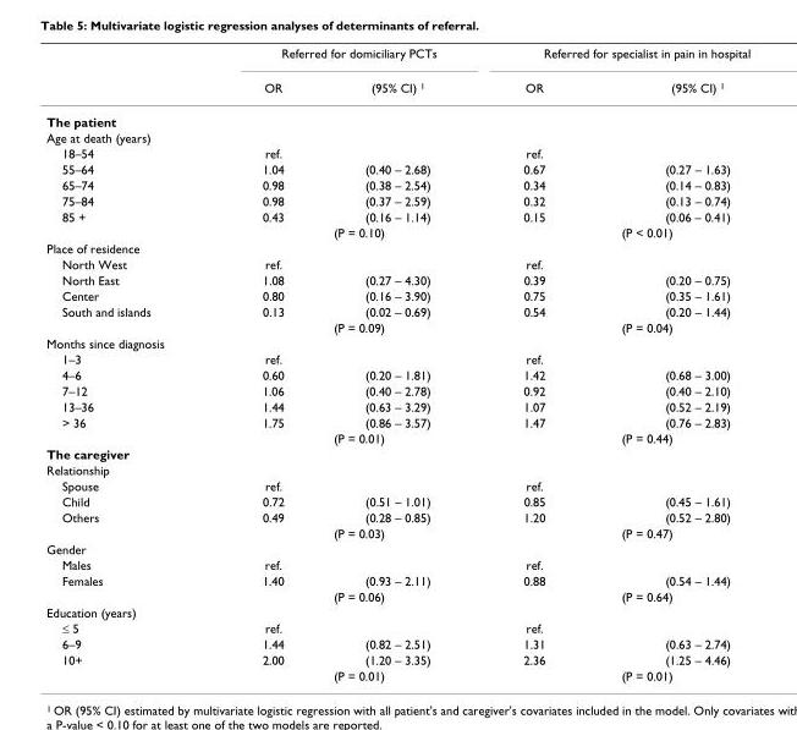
<table><thead><tr><td rowspan="2"></td><td colspan="2">Referred for domiciliary PCTs</td><td colspan="2">Referred for specialist in pain in hospital</td></tr><tr><td>OR</td><td>(95% CI) <sup>1</sup></td><td>OR</td><td>(95% CI) <sup>1</sup></td></tr></thead><tbody><tr><td colspan="5">The patient</td></tr><tr><td colspan="5">Age at death (years)</td></tr><tr><td>18–54</td><td>ref.</td><td></td><td>ref.</td><td></td></tr><tr><td>55–64</td><td>1.04</td><td>(0.40 – 2.68)</td><td>0.67</td><td>(0.27 – 1.63)</td></tr><tr><td>65–74</td><td>0.98</td><td>(0.38 – 2.54)</td><td>0.34</td><td>(0.14 – 0.83)</td></tr><tr><td>75–84</td><td>0.98</td><td>(0.37 – 2.59)</td><td>0.32</td><td>(0.13 – 0.74)</td></tr><tr><td rowspan="2">85 +</td><td>0.43</td><td>(0.16 – 1.14)</td><td>0.15</td><td>(0.06 – 0.41)</td></tr><tr><td colspan="2">(P = 0.10)</td><td colspan="2">(P &lt; 0.01)</td></tr><tr><td colspan="5">Place of residence</td></tr><tr><td>North West</td><td>ref.</td><td></td><td>ref.</td><td></td></tr><tr><td>North East</td><td>1.08</td><td>(0.27 – 4.30)</td><td>0.39</td><td>(0.20 – 0.75)</td></tr><tr><td>Center</td><td>0.80</td><td>(0.16 – 3.90)</td><td>0.75</td><td>(0.35 – 1.61)</td></tr><tr><td rowspan="2">South and islands</td><td>0.13</td><td>(0.02 – 0.69)</td><td>0.54</td><td>(0.20 – 1.44)</td></tr><tr><td colspan="2">(P = 0.09)</td><td colspan="2">(P = 0.04)</td></tr><tr><td colspan="5">Months since diagnosis</td></tr><tr><td>1–3</td><td>ref.</td><td></td><td>ref.</td><td></td></tr><tr><td>4–6</td><td>0.60</td><td>(0.20 – 1.81)</td><td>1.42</td><td>(0.68 – 3.00)</td></tr><tr><td>7–12</td><td>1.06</td><td>(0.40 – 2.78)</td><td>0.92</td><td>(0.40 – 2.10)</td></tr><tr><td>13–36</td><td>1.44</td><td>(0.63 – 3.29)</td><td>1.07</td><td>(0.52 – 2.19)</td></tr><tr><td rowspan="2">&gt; 36</td><td>1.75</td><td>(0.86 – 3.57)</td><td>1.47</td><td>(0.76 – 2.83)</td></tr><tr><td colspan="2">(P = 0.01)</td><td colspan="2">(P = 0.44)</td></tr><tr><td colspan="5">The caregiver</td></tr><tr><td colspan="5">Relationship</td></tr><tr><td>Spouse</td><td>ref.</td><td></td><td>ref.</td><td></td></tr><tr><td>Child</td><td>0.72</td><td>(0.51 – 1.01)</td><td>0.85</td><td>(0.45 – 1.61)</td></tr><tr><td rowspan="2">Others</td><td>0.49</td><td>(0.28 – 0.85)</td><td>1.20</td><td>(0.52 – 2.80)</td></tr><tr><td colspan="2">(P = 0.03)</td><td colspan="2">(P = 0.47)</td></tr><tr><td colspan="5">Gender</td></tr><tr><td>Males</td><td>ref.</td><td></td><td>ref.</td><td></td></tr><tr><td rowspan="2">Females</td><td>1.40</td><td>(0.93 – 2.11)</td><td>0.88</td><td>(0.54 – 1.44)</td></tr><tr><td colspan="2">(P = 0.06)</td><td colspan="2">(P = 0.64)</td></tr><tr><td colspan="5">Education (years)</td></tr><tr><td>≤ 5</td><td>ref.</td><td></td><td>ref.</td><td></td></tr><tr><td>6–9</td><td>1.44</td><td>(0.82 – 2.51)</td><td>1.31</td><td>(0.63 – 2.74)</td></tr><tr><td rowspan="2">10+</td><td>2.00</td><td>(1.20 – 3.35)</td><td>2.36</td><td>(1.25 – 4.46)</td></tr><tr><td colspan="2">(P = 0.01)</td><td colspan="2">(P = 0.01)</td></tr></tbody></table>